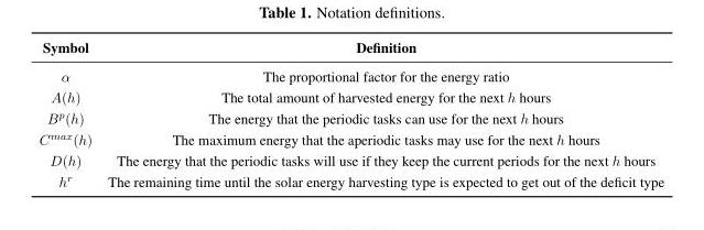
<table><thead><tr><td>Symbol</td><td>Definition</td></tr></thead><tbody><tr><td>α</td><td>The proportional factor for the energy ratio</td></tr><tr><td>A(h)</td><td>The total amount of harvested energy for the next h hours</td></tr><tr><td>B<sup>p</sup>(h)</td><td>The energy that the periodic tasks can use for the next h hours</td></tr><tr><td>C<sup>max</sup>(h)</td><td>The maximum energy that the aperiodic tasks may use for the next h hours</td></tr><tr><td>D(h)</td><td>The energy that the periodic tasks will use if they keep the current periods for the next h hours</td></tr><tr><td>h<sup>r</sup></td><td>The remaining time until the solar energy harvesting type is expected to get out of the deficit type</td></tr></tbody></table>